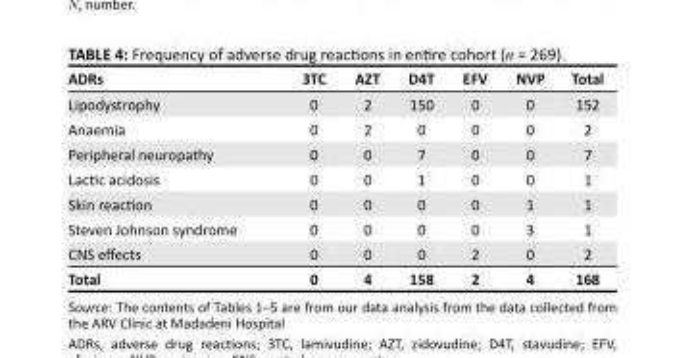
<table><thead><tr><td>ADRs</td><td>3TC</td><td>AZT</td><td>D4T</td><td>EFV</td><td>NVP</td><td>Total</td></tr></thead><tbody><tr><td>Lipodystrophy</td><td>0</td><td>2</td><td>150</td><td>0</td><td>0</td><td>152</td></tr><tr><td>Anaemia</td><td>0</td><td>2</td><td>0</td><td>0</td><td>0</td><td>2</td></tr><tr><td>Peripheral neuropathy</td><td>0</td><td>0</td><td>7</td><td>0</td><td>0</td><td>7</td></tr><tr><td>Lactic acidosis</td><td>0</td><td>0</td><td>1</td><td>0</td><td>0</td><td>1</td></tr><tr><td>Skin reaction</td><td>0</td><td>0</td><td>0</td><td>0</td><td>1</td><td>1</td></tr><tr><td>Steven Johnson syndrome</td><td>0</td><td>0</td><td>0</td><td>0</td><td>3</td><td>1</td></tr><tr><td>CNS effects</td><td>0</td><td>0</td><td>0</td><td>2</td><td>0</td><td>2</td></tr><tr><td>Total</td><td>0</td><td>4</td><td>158</td><td>2</td><td>4</td><td>168</td></tr></tbody></table>